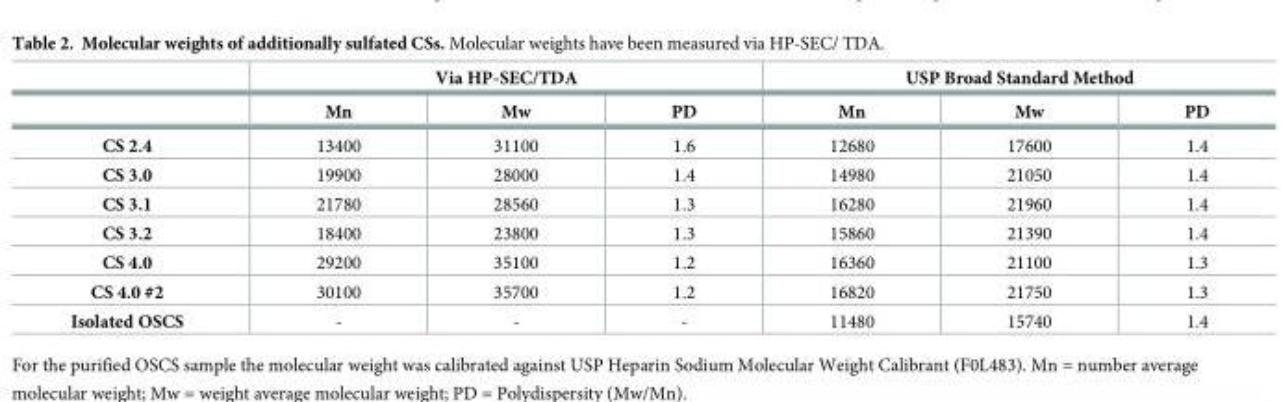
<table><thead><tr><td rowspan="2"></td><td colspan="3">Via HP-SEC/TDA</td><td colspan="3">USP Broad Standard Method</td></tr><tr><td>Mn</td><td>Mw</td><td>PD</td><td>Mn</td><td>Mw</td><td>PD</td></tr></thead><tbody><tr><td>CS 2.4</td><td>13400</td><td>31100</td><td>1.6</td><td>12680</td><td>17600</td><td>1.4</td></tr><tr><td>CS 3.0</td><td>19900</td><td>28000</td><td>1.4</td><td>14980</td><td>21050</td><td>1.4</td></tr><tr><td>CS 3.1</td><td>21780</td><td>28560</td><td>1.3</td><td>16280</td><td>21960</td><td>1.4</td></tr><tr><td>CS 3.2</td><td>18400</td><td>23800</td><td>1.3</td><td>15860</td><td>21390</td><td>1.4</td></tr><tr><td>CS 4.0</td><td>29200</td><td>35100</td><td>1.2</td><td>16360</td><td>21100</td><td>1.3</td></tr><tr><td>CS 4.0 #2</td><td>30100</td><td>35700</td><td>1.2</td><td>16820</td><td>21750</td><td>1.3</td></tr><tr><td>Isolated OSCS</td><td>-</td><td>-</td><td>-</td><td>11480</td><td>15740</td><td>1.4</td></tr></tbody></table>